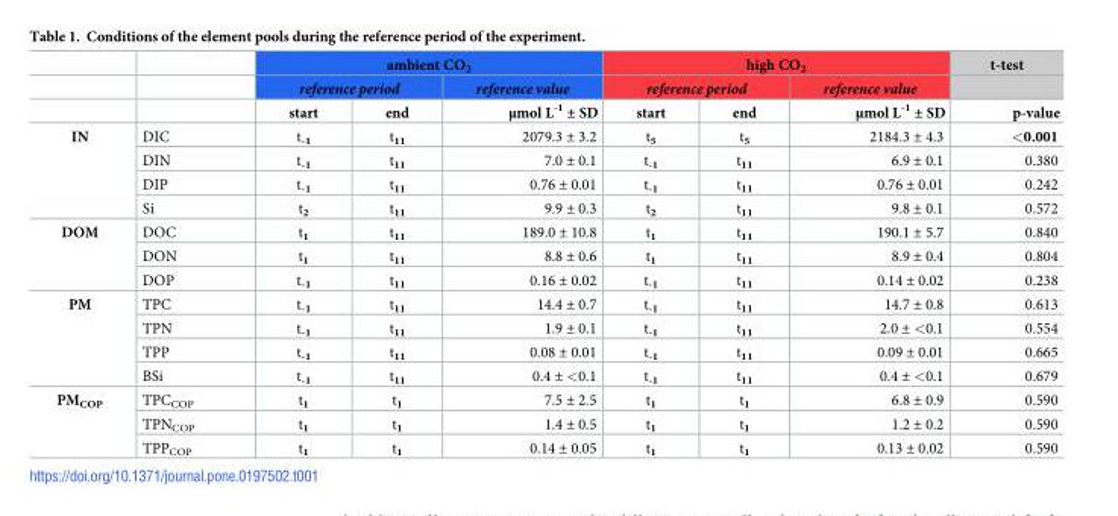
<table><thead><tr><td rowspan="3"></td><td rowspan="3"></td><td colspan="3">ambient CO<sub>2</sub></td><td colspan="3">high CO<sub>2</sub></td><td rowspan="3">t-test p-value</td></tr><tr><td colspan="2">reference period</td><td rowspan="2">reference value μmol L<sup>-1</sup> ± SD</td><td colspan="2">reference period</td><td rowspan="2">reference value μmol L<sup>-1</sup> ± SD</td></tr><tr><td>start</td><td>end</td><td>start</td><td>end</td></tr></thead><tbody><tr><td rowspan="4">IN</td><td>DIC</td><td>t<sub>-1</sub></td><td>t<sub>11</sub></td><td>2079.3 ± 3.2</td><td>t<sub>5</sub></td><td>t<sub>5</sub></td><td>2184.3 ± 4.3</td><td>&lt;0.001</td></tr><tr><td>DIN</td><td>t<sub>-1</sub></td><td>t<sub>11</sub></td><td>7.0 ± 0.1</td><td>t<sub>-1</sub></td><td>t<sub>11</sub></td><td>6.9 ± 0.1</td><td>0.380</td></tr><tr><td>DIP</td><td>t<sub>-1</sub></td><td>t<sub>11</sub></td><td>0.76 ± 0.01</td><td>t<sub>-1</sub></td><td>t<sub>11</sub></td><td>0.76 ± 0.01</td><td>0.242</td></tr><tr><td>Si</td><td>t<sub>2</sub></td><td>t<sub>11</sub></td><td>9.9 ± 0.3</td><td>t<sub>2</sub></td><td>t<sub>11</sub></td><td>9.8 ± 0.1</td><td>0.572</td></tr><tr><td rowspan="3">DOM</td><td>DOC</td><td>t<sub>1</sub></td><td>t<sub>11</sub></td><td>189.0 ± 10.8</td><td>t<sub>1</sub></td><td>t<sub>11</sub></td><td>190.1 ± 5.7</td><td>0.840</td></tr><tr><td>DON</td><td>t<sub>1</sub></td><td>t<sub>11</sub></td><td>8.8 ± 0.6</td><td>t<sub>1</sub></td><td>t<sub>11</sub></td><td>8.9 ± 0.4</td><td>0.804</td></tr><tr><td>DOP</td><td>t<sub>-1</sub></td><td>t<sub>11</sub></td><td>0.16 ± 0.02</td><td>t<sub>-1</sub></td><td>t<sub>11</sub></td><td>0.14 ± 0.02</td><td>0.238</td></tr><tr><td rowspan="4">PM</td><td>TPC</td><td>t<sub>-1</sub></td><td>t<sub>11</sub></td><td>14.4 ± 0.7</td><td>t<sub>-1</sub></td><td>t<sub>11</sub></td><td>14.7 ± 0.8</td><td>0.613</td></tr><tr><td>TPN</td><td>t<sub>-1</sub></td><td>t<sub>11</sub></td><td>1.9 ± 0.1</td><td>t<sub>-1</sub></td><td>t<sub>11</sub></td><td>2.0 ± &lt;0.1</td><td>0.554</td></tr><tr><td>TPP</td><td>t<sub>-1</sub></td><td>t<sub>11</sub></td><td>0.08 ± 0.01</td><td>t<sub>-1</sub></td><td>t<sub>11</sub></td><td>0.09 ± 0.01</td><td>0.665</td></tr><tr><td>BSi</td><td>t<sub>-1</sub></td><td>t<sub>11</sub></td><td>0.4 ± &lt;0.1</td><td>t<sub>-1</sub></td><td>t<sub>11</sub></td><td>0.4 ± &lt;0.1</td><td>0.679</td></tr><tr><td rowspan="3">PM<sub>COP</sub></td><td>TPC<sub>COP</sub></td><td>t<sub>1</sub></td><td>t<sub>1</sub></td><td>7.5 ± 2.5</td><td>t<sub>1</sub></td><td>t<sub>1</sub></td><td>6.8 ± 0.9</td><td>0.590</td></tr><tr><td>TPN<sub>COP</sub></td><td>t<sub>1</sub></td><td>t<sub>1</sub></td><td>1.4 ± 0.5</td><td>t<sub>1</sub></td><td>t<sub>1</sub></td><td>1.2 ± 0.2</td><td>0.590</td></tr><tr><td>TPP<sub>COP</sub></td><td>t<sub>1</sub></td><td>t<sub>1</sub></td><td>0.14 ± 0.05</td><td>t<sub>1</sub></td><td>t<sub>1</sub></td><td>0.13 ± 0.02</td><td>0.590</td></tr></tbody></table>